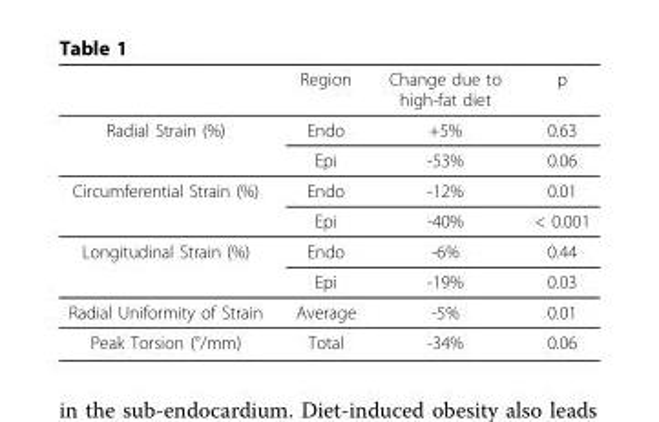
<table><thead><tr><td></td><td>Region</td><td>Change due to high-fat diet</td><td>p</td></tr></thead><tbody><tr><td rowspan="2">Radial Strain (%)</td><td>Endo</td><td>+5%</td><td>0.63</td></tr><tr><td>Epi</td><td>-53%</td><td>0.06</td></tr><tr><td rowspan="2">Circumferential Strain (%)</td><td>Endo</td><td>-12%</td><td>0.01</td></tr><tr><td>Epi</td><td>-40%</td><td>&lt; 0.001</td></tr><tr><td rowspan="2">Longitudinal Strain (%)</td><td>Endo</td><td>-6%</td><td>0.44</td></tr><tr><td>Epi</td><td>-19%</td><td>0.03</td></tr><tr><td>Radial Uniformity of Strain</td><td>Average</td><td>-5%</td><td>0.01</td></tr><tr><td>Peak Torsion (°/mm)</td><td>Total</td><td>-34%</td><td>0.06</td></tr></tbody></table>